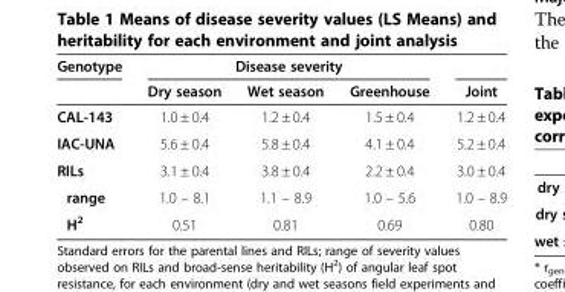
<table><thead><tr><td rowspan="2">Genotype</td><td colspan="3">Disease severity</td><td rowspan="2">Joint</td></tr><tr><td>Dry season</td><td>Wet season</td><td>Greenhouse</td></tr></thead><tbody><tr><td>CAL-143</td><td>1.0 ± 0.4</td><td>1.2 ± 0.4</td><td>1.5 ± 0.4</td><td>1.2 ± 0.4</td></tr><tr><td>IAC-UNA</td><td>5.6 ± 0.4</td><td>5.8 ± 0.4</td><td>4.1 ± 0.4</td><td>5.2 ± 0.4</td></tr><tr><td>RILs</td><td>3.1 ± 0.4</td><td>3.8 ± 0.4</td><td>2.2 ± 0.4</td><td>3.0 ± 0.4</td></tr><tr><td>range</td><td>1.0 – 8.1</td><td>1.1 – 8.9</td><td>1.0 – 5.6</td><td>1.0 – 8.9</td></tr><tr><td>H<sup>2</sup></td><td>0.51</td><td>0.81</td><td>0.69</td><td>0.80</td></tr></tbody></table>